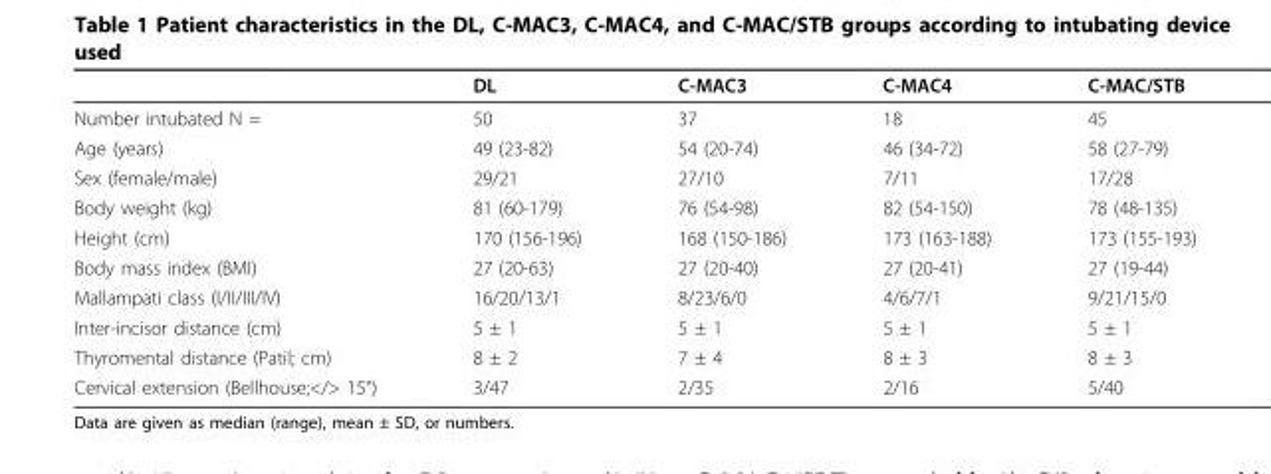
<table><thead><tr><td></td><td>DL</td><td>C-MAC3</td><td>C-MAC4</td><td>C-MAC/STB</td></tr></thead><tbody><tr><td>Number intubated N =</td><td>50</td><td>37</td><td>18</td><td>45</td></tr><tr><td>Age (years)</td><td>49 (23-82)</td><td>54 (20-74)</td><td>46 (34-72)</td><td>58 (27-79)</td></tr><tr><td>Sex (female/male)</td><td>29/21</td><td>27/10</td><td>7/11</td><td>17/28</td></tr><tr><td>Body weight (kg)</td><td>81 (60-179)</td><td>76 (54-98)</td><td>82 (54-150)</td><td>78 (48-135)</td></tr><tr><td>Height (cm)</td><td>170 (156-196)</td><td>168 (150-186)</td><td>173 (163-188)</td><td>173 (155-193)</td></tr><tr><td>Body mass index (BMI)</td><td>27 (20-63)</td><td>27 (20-40)</td><td>27 (20-41)</td><td>27 (19-44)</td></tr><tr><td>Mallampati class (I/II/III/IV)</td><td>16/20/13/1</td><td>8/23/6/0</td><td>4/6/7/1</td><td>9/21/15/0</td></tr><tr><td>Inter-incisor distance (cm)</td><td>5 ± 1</td><td>5 ± 1</td><td>5 ± 1</td><td>5 ± 1</td></tr><tr><td>Thyromental distance (Patil; cm)</td><td>8 ± 2</td><td>7 ± 4</td><td>8 ± 3</td><td>8 ± 3</td></tr><tr><td>Cervical extension (Bellhouse;&lt;/&gt; 15°)</td><td>3/47</td><td>2/35</td><td>2/16</td><td>5/40</td></tr></tbody></table>